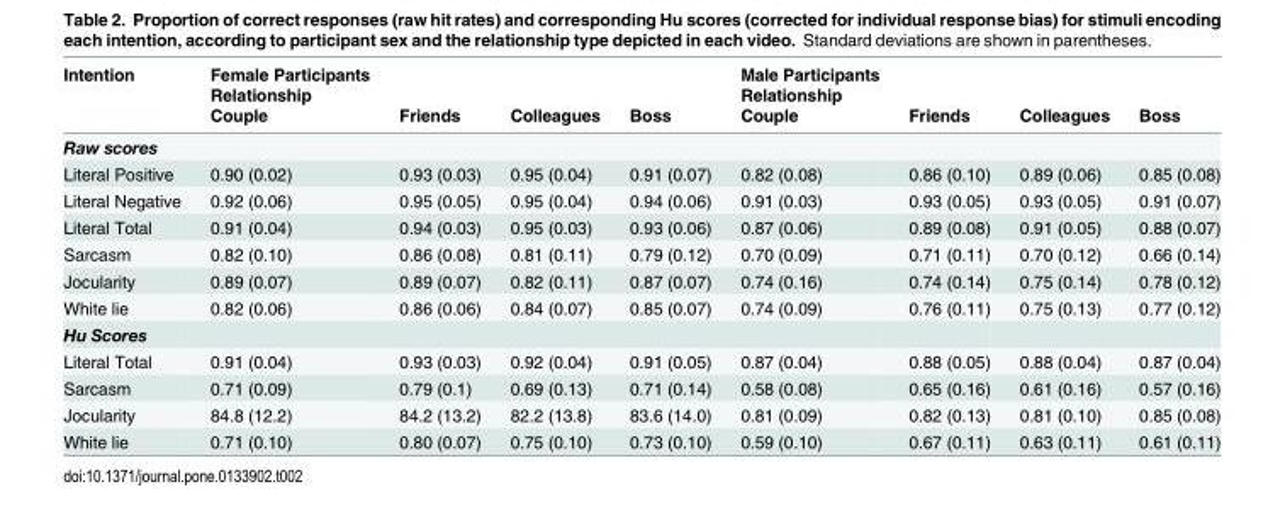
<table><thead><tr><td rowspan="3">Intention</td><td rowspan="3">Female Participants Relationship Couple</td><td rowspan="3">Friends</td><td rowspan="3">Colleagues</td><td rowspan="3">Boss</td><td rowspan="3">Male Participants Relationship Couple</td><td rowspan="3">Friends</td><td rowspan="3">Colleagues</td><td rowspan="3">Boss</td></tr><tr></tr><tr></tr></thead><tbody><tr><td colspan="9">Raw scores</td></tr><tr><td>Literal Positive</td><td>0.90 (0.02)</td><td>0.93 (0.03)</td><td>0.95 (0.04)</td><td>0.91 (0.07)</td><td>0.82 (0.08)</td><td>0.86 (0.10)</td><td>0.89 (0.06)</td><td>0.85 (0.08)</td></tr><tr><td>Literal Negative</td><td>0.92 (0.06)</td><td>0.95 (0.05)</td><td>0.95 (0.04)</td><td>0.94 (0.06)</td><td>0.91 (0.03)</td><td>0.93 (0.05)</td><td>0.93 (0.05)</td><td>0.91 (0.07)</td></tr><tr><td>Literal Total</td><td>0.91 (0.04)</td><td>0.94 (0.03)</td><td>0.95 (0.03)</td><td>0.93 (0.06)</td><td>0.87 (0.06)</td><td>0.89 (0.08)</td><td>0.91 (0.05)</td><td>0.88 (0.07)</td></tr><tr><td>Sarcasm</td><td>0.82 (0.10)</td><td>0.86 (0.08)</td><td>0.81 (0.11)</td><td>0.79 (0.12)</td><td>0.70 (0.09)</td><td>0.71 (0.11)</td><td>0.70 (0.12)</td><td>0.66 (0.14)</td></tr><tr><td>Jocularity</td><td>0.89 (0.07)</td><td>0.89 (0.07)</td><td>0.82 (0.11)</td><td>0.87 (0.07)</td><td>0.74 (0.16)</td><td>0.74 (0.14)</td><td>0.75 (0.14)</td><td>0.78 (0.12)</td></tr><tr><td>White lie</td><td>0.82 (0.06)</td><td>0.86 (0.06)</td><td>0.84 (0.07)</td><td>0.85 (0.07)</td><td>0.74 (0.09)</td><td>0.76 (0.11)</td><td>0.75 (0.13)</td><td>0.77 (0.12)</td></tr><tr><td colspan="9">Hu Scores</td></tr><tr><td>Literal Total</td><td>0.91 (0.04)</td><td>0.93 (0.03)</td><td>0.92 (0.04)</td><td>0.91 (0.05)</td><td>0.87 (0.04)</td><td>0.88 (0.05)</td><td>0.88 (0.04)</td><td>0.87 (0.04)</td></tr><tr><td>Sarcasm</td><td>0.71 (0.09)</td><td>0.79 (0.1)</td><td>0.69 (0.13)</td><td>0.71 (0.14)</td><td>0.58 (0.08)</td><td>0.65 (0.16)</td><td>0.61 (0.16)</td><td>0.57 (0.16)</td></tr><tr><td>Jocularity</td><td>84.8 (12.2)</td><td>84.2 (13.2)</td><td>82.2 (13.8)</td><td>83.6 (14.0)</td><td>0.81 (0.09)</td><td>0.82 (0.13)</td><td>0.81 (0.10)</td><td>0.85 (0.08)</td></tr><tr><td>White lie</td><td>0.71 (0.10)</td><td>0.80 (0.07)</td><td>0.75 (0.10)</td><td>0.73 (0.10)</td><td>0.59 (0.10)</td><td>0.67 (0.11)</td><td>0.63 (0.11)</td><td>0.61 (0.11)</td></tr></tbody></table>